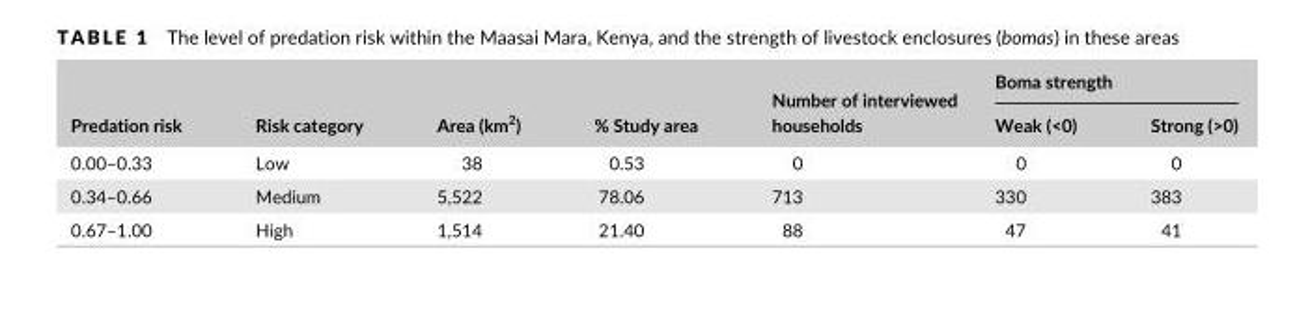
<table><thead><tr><td rowspan="2">Predation risk</td><td rowspan="2">Risk category</td><td rowspan="2">Area (km<sup>2</sup>)</td><td rowspan="2">% Study area</td><td rowspan="2">Number of interviewed households</td><td colspan="2">Boma strength</td></tr><tr><td>Weak (&lt;0)</td><td>Strong (&gt;0)</td></tr></thead><tbody><tr><td>0.00–0.33</td><td>Low</td><td>38</td><td>0.53</td><td>0</td><td>0</td><td>0</td></tr><tr><td>0.34–0.66</td><td>Medium</td><td>5,522</td><td>78.06</td><td>713</td><td>330</td><td>383</td></tr><tr><td>0.67–1.00</td><td>High</td><td>1,514</td><td>21.40</td><td>88</td><td>47</td><td>41</td></tr></tbody></table>